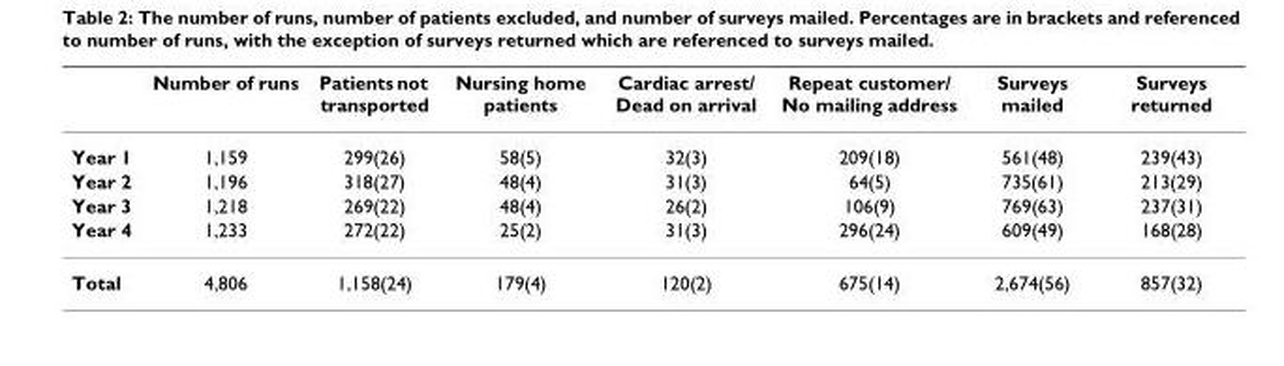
<table><thead><tr><td></td><td>Number of runs</td><td>Patients not transported</td><td>Nursing home patients</td><td>Cardiac arrest/ Dead on arrival</td><td>Repeat customer/ No mailing address</td><td>Surveys mailed</td><td>Surveys returned</td></tr></thead><tbody><tr><td>Year 1</td><td>1,159</td><td>299(26)</td><td>58(5)</td><td>32(3)</td><td>209(18)</td><td>561(48)</td><td>239(43)</td></tr><tr><td>Year 2</td><td>1,196</td><td>318(27)</td><td>48(4)</td><td>31(3)</td><td>64(5)</td><td>735(61)</td><td>213(29)</td></tr><tr><td>Year 3</td><td>1,218</td><td>269(22)</td><td>48(4)</td><td>26(2)</td><td>106(9)</td><td>769(63)</td><td>237(31)</td></tr><tr><td>Year 4</td><td>1,233</td><td>272(22)</td><td>25(2)</td><td>31(3)</td><td>296(24)</td><td>609(49)</td><td>168(28)</td></tr><tr><td>Total</td><td>4,806</td><td>1,158(24)</td><td>179(4)</td><td>120(2)</td><td>675(14)</td><td>2,674(56)</td><td>857(32)</td></tr></tbody></table>